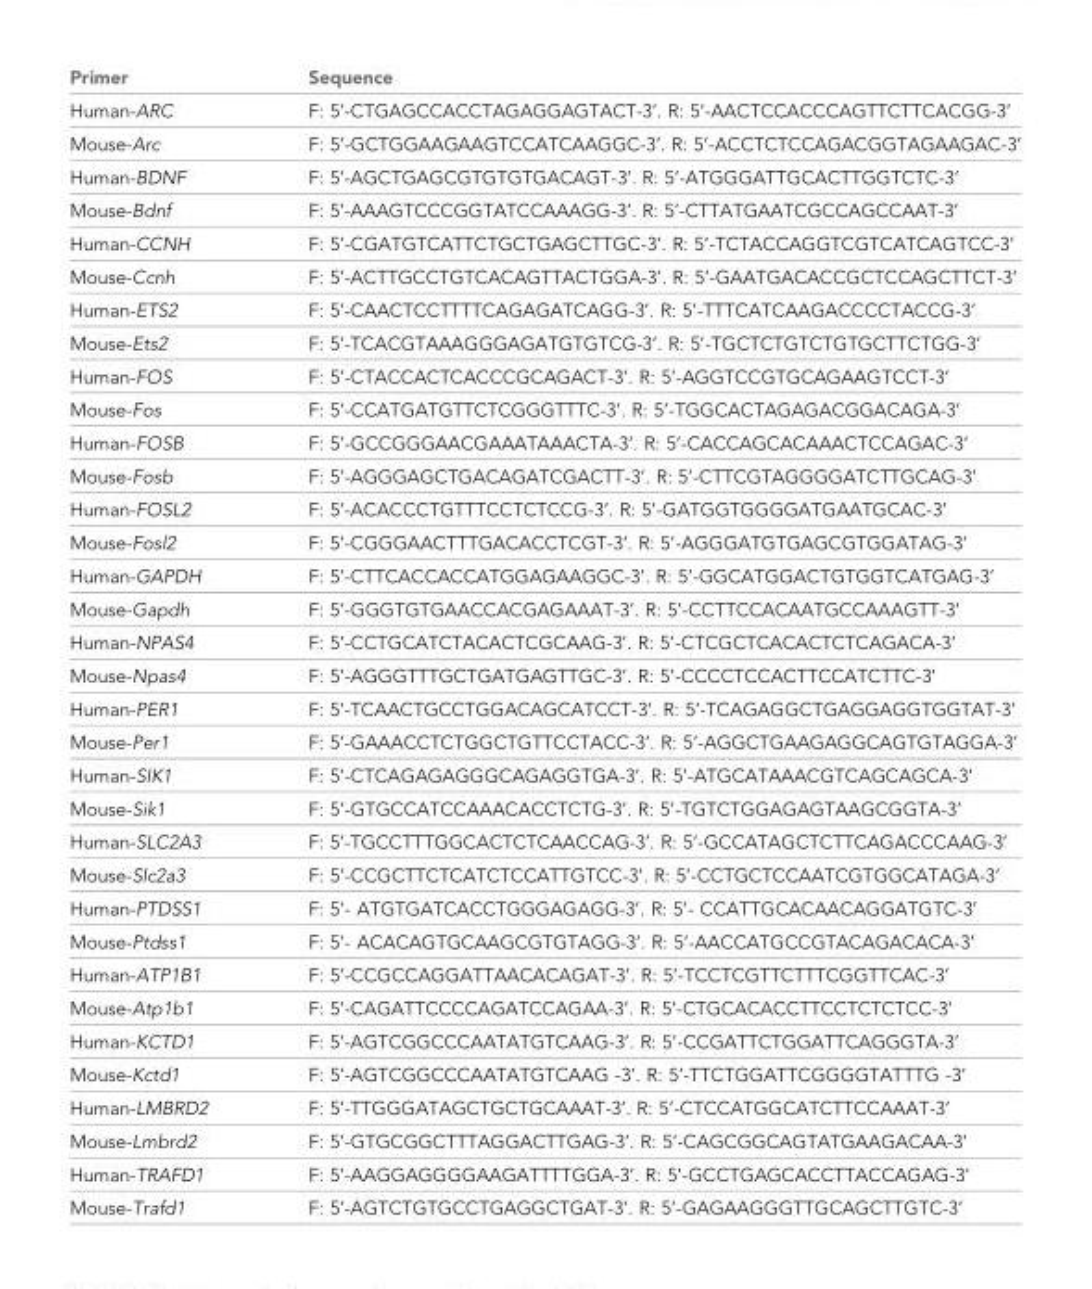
<table><thead><tr><td>Primer</td><td>Sequence</td></tr></thead><tbody><tr><td>Human-ARC</td><td>F: 5’-CTGAGCCACCTAGAGGAGTACT-3’. R: 5’-AACTCCACCCAGTTCTTCACGG-3’</td></tr><tr><td>Mouse-Arc</td><td>F: 5’-GCTGGAAGAAGTCCATCAAGGC-3’. R: 5’-ACCTCTCCAGACGGTAGAAGAC-3’</td></tr><tr><td>Human-BDNF</td><td>F: 5’-AGCTGAGCGTGTGTGACAGT-3’. R: 5’-ATGGGATTGCACTTGGTCTC-3’</td></tr><tr><td>Mouse-Bdnf</td><td>F: 5’-AAAGTCCCGGTATCCAAAGG-3’. R: 5’-CTTATGAATCGCCAGCCAAT-3’</td></tr><tr><td>Human-CCNH</td><td>F: 5’-CGATGTCATTCTGCTGAGCTTGC-3’. R: 5’-TCTACCAGGTCGTCATCAGTCC-3’</td></tr><tr><td>Mouse-Ccnh</td><td>F: 5’-ACTTGCCTGTCACAGTTACTGGA-3’. R: 5’-GAATGACACCGCTCCAGCTTCT-3’</td></tr><tr><td>Human-ETS2</td><td>F: 5’-CAACTCCTTTTCAGAGATCAGG-3’. R: 5’-TTTCATCAAGACCCCTACCG-3’</td></tr><tr><td>Mouse-Ets2</td><td>F: 5’-TCACGTAAAGGGAGATGTGTCG-3’. R: 5’-TGCTCTGTCTGTGCTTCTGG-3’</td></tr><tr><td>Human-FOS</td><td>F: 5’-CTACCACTCACCCGCAGACT-3’. R: 5’-AGGTCCGTGCAGAAGTCCT-3’</td></tr><tr><td>Mouse-Fos</td><td>F: 5’-CCATGATGTTCTCGGGTTTC-3’. R: 5’-TGGCACTAGAGACGGACAGA-3’</td></tr><tr><td>Human-FOSB</td><td>F: 5’-GCCGGGAACGAAATAAACTA-3’. R: 5’-CACCAGCACAAACTCCAGAC-3’</td></tr><tr><td>Mouse-Fosb</td><td>F: 5’-AGGGAGCTGACAGATCGACTT-3’. R: 5’-CTTCGTAGGGGATCTTGCAG-3’</td></tr><tr><td>Human-FOSL2</td><td>F: 5’-ACACCCTGTTTCCTCTCCG-3’. R: 5’-GATGGTGGGGATGAATGCAC-3’</td></tr><tr><td>Mouse-Fosl2</td><td>F: 5’-CGGGAACTTTGACACCTCGT-3’. R: 5’-AGGGATGTGAGCGTGGATAG-3’</td></tr><tr><td>Human-GAPDH</td><td>F: 5’-CTTCACCACCATGGAGAAGGC-3’. R: 5’-GGCATGGACTGTGGTCATGAG-3’</td></tr><tr><td>Mouse-Gapdh</td><td>F: 5’-GGGTGTGAACCACGAGAAAT-3’. R: 5’-CCTTCCACAATGCCAAAGTT-3’</td></tr><tr><td>Human-NPAS4</td><td>F: 5’-CCTGCATCTACACTCGCAAG-3’. R: 5’-CTCGCTCACACTCTCAGACA-3’</td></tr><tr><td>Mouse-Npas4</td><td>F: 5’-AGGGTTTGCTGATGAGTTGC-3’. R: 5’-CCCCTCCACTTCCATCTTC-3’</td></tr><tr><td>Human-PER1</td><td>F: 5’-TCAACTGCCTGGACAGCATCCT-3’. R: 5’-TCAGAGGCTGAGGAGGTGGTAT-3’</td></tr><tr><td>Mouse-Per1</td><td>F: 5’-GAAACCTCTGGCTGTTCCTACC-3’. R: 5’-AGGCTGAAGAGGCAGTGTAGGA-3’</td></tr><tr><td>Human-SIK1</td><td>F: 5’-CTCAGAGAGGGCAGAGGTGA-3’. R: 5’-ATGCATAAACGTCAGCAGCA-3’</td></tr><tr><td>Mouse-Sik1</td><td>F: 5’-GTGCCATCCAAACACCTCTG-3’. R: 5’-TGTCTGGAGAGTAAGCGGTA-3’</td></tr><tr><td>Human-SLC2A3</td><td>F: 5’-TGCCTTTGGCACTCTCAACCAG-3’. R: 5’-GCCATAGCTCTTCAGACCCAAG-3’</td></tr><tr><td>Mouse-Slc2a3</td><td>F: 5’-CCGCTTCTCATCTCCATTGTCC-3’. R: 5’-CCTGCTCCAATCGTGGCATAGA-3’</td></tr><tr><td>Human-PTDSS1</td><td>F: 5’- ATGTGATCACCTGGGAGAGG-3’. R: 5’- CCATTGCACAACAGGATGTC-3’</td></tr><tr><td>Mouse-Ptdss1</td><td>F: 5’- ACACAGTGCAAGCGTGTAGG-3’. R: 5’-AACCATGCCGTACAGACACA-3’</td></tr><tr><td>Human-ATP1B1</td><td>F: 5’-CCGCCAGGATTAACACAGAT-3’. R: 5’-TCCTCGTTCTTTCGGTTCAC-3’</td></tr><tr><td>Mouse-Atp1b1</td><td>F: 5’-CAGATTCCCCAGATCCAGAA-3’. R: 5’-CTGCACACCTTCCTCTCTCC-3’</td></tr><tr><td>Human-KCTD1</td><td>F: 5’-AGTCGGCCCAATATGTCAAG-3’. R: 5’-CCGATTCTGGATTCAGGGTA-3’</td></tr><tr><td>Mouse-Kctd1</td><td>F: 5’-AGTCGGCCCAATATGTCAAG -3’. R: 5’-TTCTGGATTCGGGGTATTTG -3’</td></tr><tr><td>Human-LMBRD2</td><td>F: 5’-TTGGGATAGCTGCTGCAAAT-3’. R: 5’-CTCCATGGCATCTTCCAAAT-3’</td></tr><tr><td>Mouse-Lmbrd2</td><td>F: 5’-GTGCGGCTTTAGGACTTGAG-3’. R: 5’-CAGCGGCAGTATGAAGACAA-3’</td></tr><tr><td>Human-TRAFD1</td><td>F: 5’-AAGGAGGGGAAGATTTTGGA-3’. R: 5’-GCCTGAGCACCTTACCAGAG-3’</td></tr><tr><td>Mouse-Trafd1</td><td>F: 5’-AGTCTGTGCCTGAGGCTGAT-3’. R: 5’-GAGAAGGGTTGCAGCTTGTC-3’</td></tr></tbody></table>